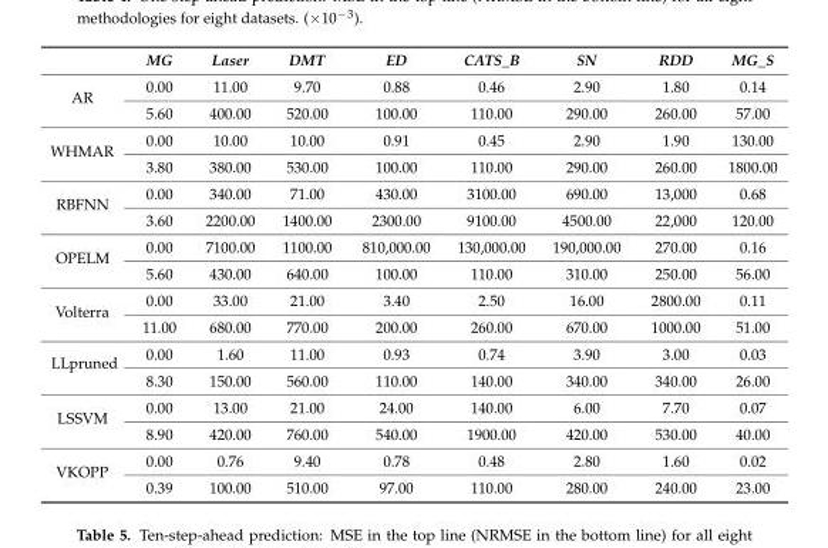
<table><thead><tr><td></td><td>MG</td><td>Laser</td><td>DMT</td><td>ED</td><td>CATS_B</td><td>SN</td><td>RDD</td><td>MG_S</td></tr></thead><tbody><tr><td rowspan="2">AR</td><td>0.00</td><td>11.00</td><td>9.70</td><td>0.88</td><td>0.46</td><td>2.90</td><td>1.80</td><td>0.14</td></tr><tr><td>5.60</td><td>400.00</td><td>520.00</td><td>100.00</td><td>110.00</td><td>290.00</td><td>260.00</td><td>57.00</td></tr><tr><td rowspan="2">WHMAR</td><td>0.00</td><td>10.00</td><td>10.00</td><td>0.91</td><td>0.45</td><td>2.90</td><td>1.90</td><td>130.00</td></tr><tr><td>3.80</td><td>380.00</td><td>530.00</td><td>100.00</td><td>110.00</td><td>290.00</td><td>260.00</td><td>1800.00</td></tr><tr><td rowspan="2">RBFNN</td><td>0.00</td><td>340.00</td><td>71.00</td><td>430.00</td><td>3100.00</td><td>690.00</td><td>13,000</td><td>0.68</td></tr><tr><td>3.60</td><td>2200.00</td><td>1400.00</td><td>2300.00</td><td>9100.00</td><td>4500.00</td><td>22,000</td><td>120.00</td></tr><tr><td rowspan="2">OPELM</td><td>0.00</td><td>7100.00</td><td>1100.00</td><td>810,000.00</td><td>130,000.00</td><td>190,000.00</td><td>270.00</td><td>0.16</td></tr><tr><td>5.60</td><td>430.00</td><td>640.00</td><td>100.00</td><td>110.00</td><td>310.00</td><td>250.00</td><td>56.00</td></tr><tr><td rowspan="2">Volterra</td><td>0.00</td><td>33.00</td><td>21.00</td><td>3.40</td><td>2.50</td><td>16.00</td><td>2800.00</td><td>0.11</td></tr><tr><td>11.00</td><td>680.00</td><td>770.00</td><td>200.00</td><td>260.00</td><td>670.00</td><td>1000.00</td><td>51.00</td></tr><tr><td rowspan="2">LLpruned</td><td>0.00</td><td>1.60</td><td>11.00</td><td>0.93</td><td>0.74</td><td>3.90</td><td>3.00</td><td>0.03</td></tr><tr><td>8.30</td><td>150.00</td><td>560.00</td><td>110.00</td><td>140.00</td><td>340.00</td><td>340.00</td><td>26.00</td></tr><tr><td rowspan="2">LSSVM</td><td>0.00</td><td>13.00</td><td>21.00</td><td>24.00</td><td>140.00</td><td>6.00</td><td>7.70</td><td>0.07</td></tr><tr><td>8.90</td><td>420.00</td><td>760.00</td><td>540.00</td><td>1900.00</td><td>420.00</td><td>530.00</td><td>40.00</td></tr><tr><td rowspan="2">VKOPP</td><td>0.00</td><td>0.76</td><td>9.40</td><td>0.78</td><td>0.48</td><td>2.80</td><td>1.60</td><td>0.02</td></tr><tr><td>0.39</td><td>100.00</td><td>510.00</td><td>97.00</td><td>110.00</td><td>280.00</td><td>240.00</td><td>23.00</td></tr></tbody></table>